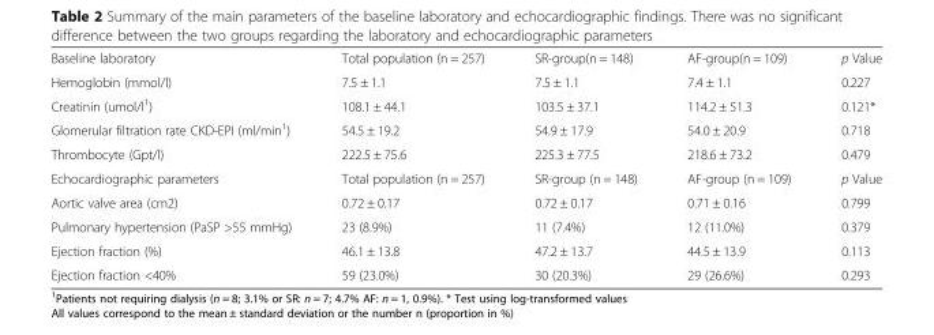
<table><tbody><tr><td>Baseline laboratory</td><td>Total population (n = 257)</td><td>SR-group(n = 148)</td><td>AF-group(n = 109)</td><td>p Value</td></tr><tr><td>Hemoglobin (mmol/l)</td><td>7.5 ± 1.1</td><td>7.5 ± 1.1</td><td>7.4 ± 1.1</td><td>0.227</td></tr><tr><td>Creatinin (umol/l<sup>1</sup>)</td><td>108.1 ± 44.1</td><td>103.5 ± 37.1</td><td>114.2 ± 51.3</td><td>0.121*</td></tr><tr><td>Glomerular filtration rate CKD-EPI (ml/min<sup>1</sup>)</td><td>54.5 ± 19.2</td><td>54.9 ± 17.9</td><td>54.0 ± 20.9</td><td>0.718</td></tr><tr><td>Thrombocyte (Gpt/l)</td><td>222.5 ± 75.6</td><td>225.3 ± 77.5</td><td>218.6 ± 73.2</td><td>0.479</td></tr><tr><td>Echocardiographic parameters</td><td>Total population (n = 257)</td><td>SR-group (n = 148)</td><td>AF-group (n = 109)</td><td>p Value</td></tr><tr><td>Aortic valve area (cm2)</td><td>0.72 ± 0.17</td><td>0.72 ± 0.17</td><td>0.71 ± 0.16</td><td>0.799</td></tr><tr><td>Pulmonary hypertension (PaSP &gt;55 mmHg)</td><td>23 (8.9%)</td><td>11 (7.4%)</td><td>12 (11.0%)</td><td>0.379</td></tr><tr><td>Ejection fraction (%)</td><td>46.1 ± 13.8</td><td>47.2 ± 13.7</td><td>44.5 ± 13.9</td><td>0.113</td></tr><tr><td>Ejection fraction &lt;40%</td><td>59 (23.0%)</td><td>30 (20.3%)</td><td>29 (26.6%)</td><td>0.293</td></tr></tbody></table>